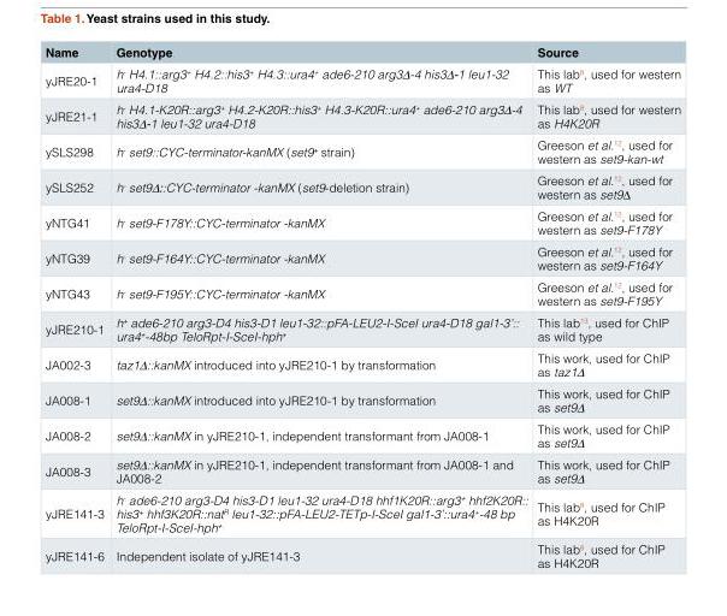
<table><thead><tr><td>Name</td><td>Genotype</td><td>Source</td></tr></thead><tbody><tr><td>yJRE20-1</td><td>h<sup>-</sup> H4.1::arg3<sup>+</sup> H4.2::his3<sup>+</sup> H4.3::ura4<sup>+</sup> ade6-210 arg3∆-4 his3∆-1 leu1-32 ura4-D18</td><td>This lab<sup>8</sup>, used for western as WT</td></tr><tr><td>yJRE21-1</td><td>h<sup>-</sup> H4.1-K20R::arg3<sup>+</sup> H4.2-K20R::his3<sup>+</sup> H4.3-K20R::ura4<sup>+</sup> ade6-210 arg3∆-4 his3∆-1 leu1-32 ura4-D18</td><td>This lab<sup>8</sup>, used for western as H4K20R</td></tr><tr><td>ySLS298</td><td>h<sup>-</sup> set9::CYC-terminator-kanMX (set9<sup>+</sup> strain)</td><td>Greeson et al.<sup>12</sup>, used for western as set9-kan-wt</td></tr><tr><td>ySLS252</td><td>h<sup>-</sup> set9∆::CYC-terminator -kanMX (set9-deletion strain)</td><td>Greeson et al.<sup>12</sup>, used for western as set9∆</td></tr><tr><td>yNTG41</td><td>h<sup>-</sup> set9-F178Y::CYC-terminator -kanMX</td><td>Greeson et al.<sup>12</sup>, used for western as set9-F178Y</td></tr><tr><td>yNTG39</td><td>h<sup>-</sup> set9-F164Y::CYC-terminator -kanMX</td><td>Greeson et al.<sup>12</sup>, used for western as set9-F164Y</td></tr><tr><td>yNTG43</td><td>h<sup>-</sup> set9-F195Y::CYC-terminator -kanMX</td><td>Greeson et al.<sup>12</sup>, used for western as set9-F195Y</td></tr><tr><td>yJRE210-1</td><td>h<sup>+</sup> ade6-210 arg3-D4 his3-D1 leu1-32::pFA-LEU2-I-SceI ura4-D18 gal1-3’:: ura4<sup>+</sup>-48bp TeloRpt-I-SceI-hph<sup>+</sup></td><td>This lab<sup>13</sup>, used for ChIP as wild type</td></tr><tr><td>JA002-3</td><td>taz1∆::kanMX introduced into yJRE210-1 by transformation</td><td>This work, used for ChIP as taz1∆</td></tr><tr><td>JA008-1</td><td>set9∆::kanMX introduced into yJRE210-1 by transformation</td><td>This work, used for ChIP as set9∆</td></tr><tr><td>JA008-2</td><td>set9∆::kanMX in yJRE210-1, independent transformant from JA008-1</td><td>This work, used for ChIP as set9∆</td></tr><tr><td>JA008-3</td><td>set9∆::kanMX in yJRE210-1, independent transformant from JA008-1 and JA008-2</td><td>This work, used for ChIP as set9∆</td></tr><tr><td>yJRE141-3</td><td>h<sup>-</sup> ade6-210 arg3-D4 his3-D1 leu1-32 ura4-D18 hhf1K20R::arg3<sup>+</sup> hhf2K20R:: his3<sup>+</sup> hhf3K20R::nat<sup>R</sup> leu1-32::pFA-LEU2-TETp-I-SceI gal1-3’::ura4<sup>+</sup>-48 bp TeloRpt-I-SceI-hph<sup>+</sup></td><td>This lab<sup>8</sup>, used for ChIP as H4K20R</td></tr><tr><td>yJRE141-6</td><td>Independent isolate of yJRE141-3</td><td>This lab<sup>8</sup>, used for ChIP as H4K20R</td></tr></tbody></table>